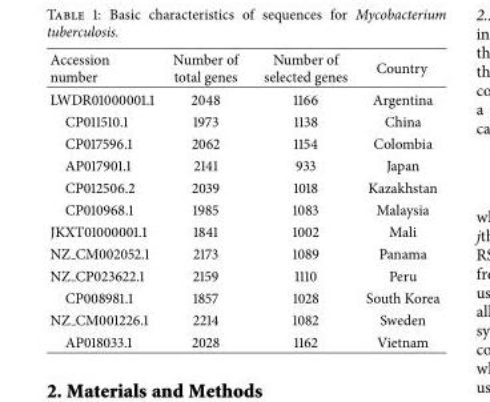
<table><thead><tr><td>Accession number</td><td>Number of total genes</td><td>Number of selected genes</td><td>Country</td></tr></thead><tbody><tr><td>LWDR01000001.1</td><td>2048</td><td>1166</td><td>Argentina</td></tr><tr><td>CP011510.1</td><td>1973</td><td>1138</td><td>China</td></tr><tr><td>CP017596.1</td><td>2062</td><td>1154</td><td>Colombia</td></tr><tr><td>AP017901.1</td><td>2141</td><td>933</td><td>Japan</td></tr><tr><td>CP012506.2</td><td>2039</td><td>1018</td><td>Kazakhstan</td></tr><tr><td>CP010968.1</td><td>1985</td><td>1083</td><td>Malaysia</td></tr><tr><td>JKXT01000001.1</td><td>1841</td><td>1002</td><td>Mali</td></tr><tr><td>NZ CM002052.1</td><td>2173</td><td>1089</td><td>Panama</td></tr><tr><td>NZ CP023622.1</td><td>2159</td><td>1110</td><td>Peru</td></tr><tr><td>CP008981.1</td><td>1857</td><td>1028</td><td>South Korea</td></tr><tr><td>NZ CM001226.1</td><td>2214</td><td>1082</td><td>Sweden</td></tr><tr><td>AP018033.1</td><td>2028</td><td>1162</td><td>Vietnam</td></tr></tbody></table>